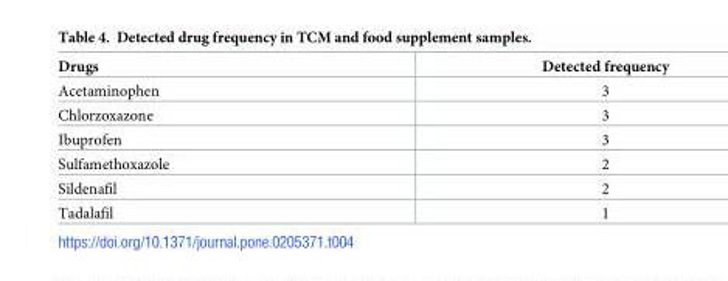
<table><thead><tr><td>Drugs</td><td>Detected frequency</td></tr></thead><tbody><tr><td>Acetaminophen</td><td>3</td></tr><tr><td>Chlorzoxazone</td><td>3</td></tr><tr><td>Ibuprofen</td><td>3</td></tr><tr><td>Sulfamethoxazole</td><td>2</td></tr><tr><td>Sildenafil</td><td>2</td></tr><tr><td>Tadalafil</td><td>1</td></tr></tbody></table>